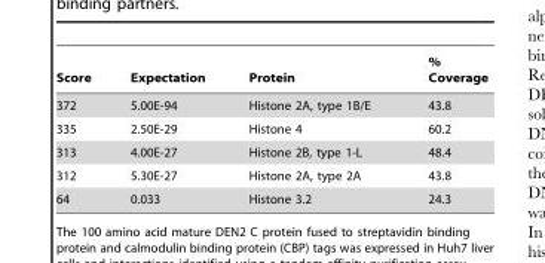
<table><thead><tr><td>Score</td><td>Expectation</td><td>Protein</td><td>% Coverage</td></tr></thead><tbody><tr><td>372</td><td>5.00E-94</td><td>Histone 2A, type 1B/E</td><td>43.8</td></tr><tr><td>335</td><td>2.50E-29</td><td>Histone 4</td><td>60.2</td></tr><tr><td>313</td><td>4.00E-27</td><td>Histone 2B, type 1-L</td><td>48.4</td></tr><tr><td>312</td><td>5.30E-27</td><td>Histone 2A, type 2A</td><td>43.8</td></tr><tr><td>64</td><td>0.033</td><td>Histone 3.2</td><td>24.3</td></tr></tbody></table>